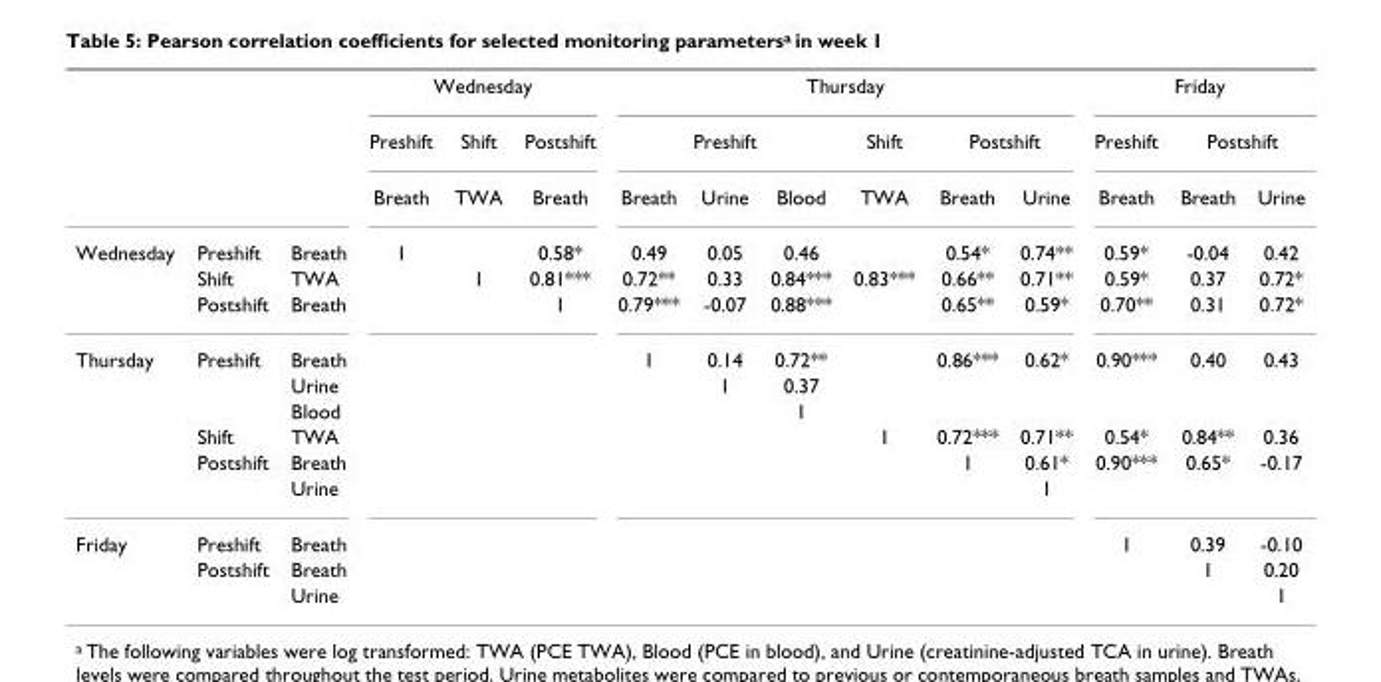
<table><thead><tr><td rowspan="3"></td><td rowspan="3"></td><td rowspan="3"></td><td colspan="3">Wednesday</td><td colspan="6">Thursday</td><td colspan="3">Friday</td></tr><tr><td rowspan="2">Preshift Breath</td><td rowspan="2">Shift TWA</td><td rowspan="2">Postshift Breath</td><td colspan="3">Preshift</td><td rowspan="2">Shift TWA</td><td colspan="2">Postshift</td><td rowspan="2">Preshift Breath</td><td colspan="2">Postshift</td></tr><tr><td>Breath</td><td>Urine</td><td>Blood</td><td>Breath</td><td>Urine</td><td>Breath</td><td>Urine</td></tr></thead><tbody><tr><td rowspan="3">Wednesday</td><td>Preshift</td><td>Breath</td><td>1</td><td></td><td>0.58*</td><td>0.49</td><td>0.05</td><td>0.46</td><td></td><td>0.54*</td><td>0.74**</td><td>0.59*</td><td>-0.04</td><td>0.42</td></tr><tr><td>Shift</td><td>TWA</td><td></td><td>1</td><td>0.81***</td><td>0.72**</td><td>0.33</td><td>0.84***</td><td>0.83***</td><td>0.66**</td><td>0.71**</td><td>0.59*</td><td>0.37</td><td>0.72*</td></tr><tr><td>Postshift</td><td>Breath</td><td></td><td></td><td>1</td><td>0.79***</td><td>-0.07</td><td>0.88***</td><td></td><td>0.65**</td><td>0.59*</td><td>0.70**</td><td>0.31</td><td>0.72*</td></tr><tr><td rowspan="6">Thursday</td><td>Preshift</td><td>Breath</td><td></td><td></td><td></td><td>1</td><td>0.14</td><td>0.72**</td><td></td><td>0.86***</td><td>0.62*</td><td>0.90***</td><td>0.40</td><td>0.43</td></tr><tr><td></td><td>Urine</td><td></td><td></td><td></td><td></td><td>1</td><td>0.37</td><td></td><td></td><td></td><td></td><td></td><td></td></tr><tr><td></td><td>Blood</td><td></td><td></td><td></td><td></td><td></td><td>1</td><td></td><td></td><td></td><td></td><td></td><td></td></tr><tr><td>Shift</td><td>TWA</td><td></td><td></td><td></td><td></td><td></td><td></td><td>1</td><td>0.72***</td><td>0.71**</td><td>0.54*</td><td>0.84**</td><td>0.36</td></tr><tr><td>Postshift</td><td>Breath</td><td></td><td></td><td></td><td></td><td></td><td></td><td></td><td>1</td><td>0.61*</td><td>0.90***</td><td>0.65*</td><td>-0.17</td></tr><tr><td></td><td>Urine</td><td></td><td></td><td></td><td></td><td></td><td></td><td></td><td></td><td>1</td><td></td><td></td><td></td></tr><tr><td rowspan="3">Friday</td><td>Preshift</td><td>Breath</td><td></td><td></td><td></td><td></td><td></td><td></td><td></td><td></td><td></td><td>1</td><td>0.39</td><td>-0.10</td></tr><tr><td>Postshift</td><td>Breath</td><td></td><td></td><td></td><td></td><td></td><td></td><td></td><td></td><td></td><td></td><td>1</td><td>0.20</td></tr><tr><td></td><td>Urine</td><td></td><td></td><td></td><td></td><td></td><td></td><td></td><td></td><td></td><td></td><td></td><td>1</td></tr></tbody></table>